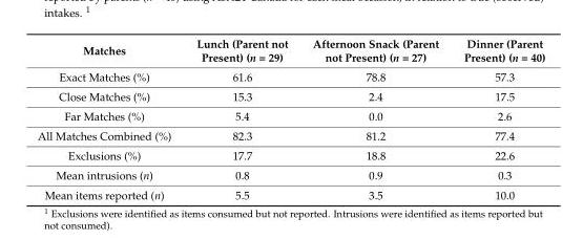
<table><thead><tr><td>Matches</td><td>Lunch (Parent not Present) (n = 29)</td><td>Afternoon Snack (Parent not Present) (n = 27)</td><td>Dinner (Parent Present) (n = 40)</td></tr></thead><tbody><tr><td>Exact Matches (%)</td><td>61.6</td><td>78.8</td><td>57.3</td></tr><tr><td>Close Matches (%)</td><td>15.3</td><td>2.4</td><td>17.5</td></tr><tr><td>Far Matches (%)</td><td>5.4</td><td>0.0</td><td>2.6</td></tr><tr><td>All Matches Combined (%)</td><td>82.3</td><td>81.2</td><td>77.4</td></tr><tr><td>Exclusions (%)</td><td>17.7</td><td>18.8</td><td>22.6</td></tr><tr><td>Mean intrusions (n)</td><td>0.8</td><td>0.9</td><td>0.3</td></tr><tr><td>Mean items reported (n)</td><td>5.5</td><td>3.5</td><td>10.0</td></tr></tbody></table>